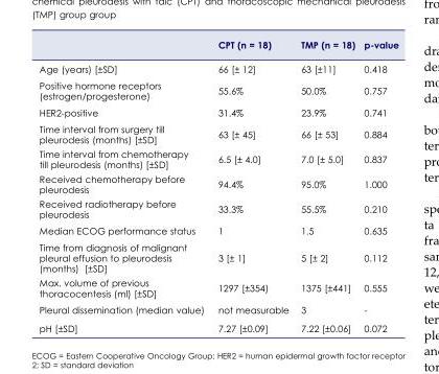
<table><thead><tr><td></td><td>CPT (n = 18)</td><td>TMP (n = 18)</td><td>p-value</td></tr></thead><tbody><tr><td>Age (years) [±SD]</td><td>66 [± 12]</td><td>63 [±11]</td><td>0.418</td></tr><tr><td>Positive hormone receptors (estrogen/progesterone)</td><td>55.6%</td><td>50.0%</td><td>0.757</td></tr><tr><td>HER2-positive</td><td>31.4%</td><td>23.9%</td><td>0.741</td></tr><tr><td>Time interval from surgery till pleurodesis (months) [±SD]</td><td>63 [± 45]</td><td>66 [± 53]</td><td>0.884</td></tr><tr><td>Time interval from chemotherapy till pleurodesis (months) [±SD]</td><td>6.5 [± 4.0]</td><td>7.0 [± 5.0]</td><td>0.837</td></tr><tr><td>Received chemotherapy before pleurodesis</td><td>94.4%</td><td>95.0%</td><td>1.000</td></tr><tr><td>Received radiotherapy before pleurodesis</td><td>33.3%</td><td>55.5%</td><td>0.210</td></tr><tr><td>Median ECOG performance status</td><td>1</td><td>1.5</td><td>0.635</td></tr><tr><td>Time from diagnosis of malignant pleural effusion to pleurodesis (months) [±SD]</td><td>3 [± 1]</td><td>5 [± 2]</td><td>0.112</td></tr><tr><td>Max. volume of previous thoracocentesis (ml) [±SD]</td><td>1297 [±354)</td><td>1375 [±441]</td><td>0.555</td></tr><tr><td>Pleural dissemination (median value)</td><td>not measurable</td><td>3</td><td>-</td></tr><tr><td>pH [±SD]</td><td>7.27 [±0.09]</td><td>7.22 [±0.06]</td><td>0.072</td></tr></tbody></table>